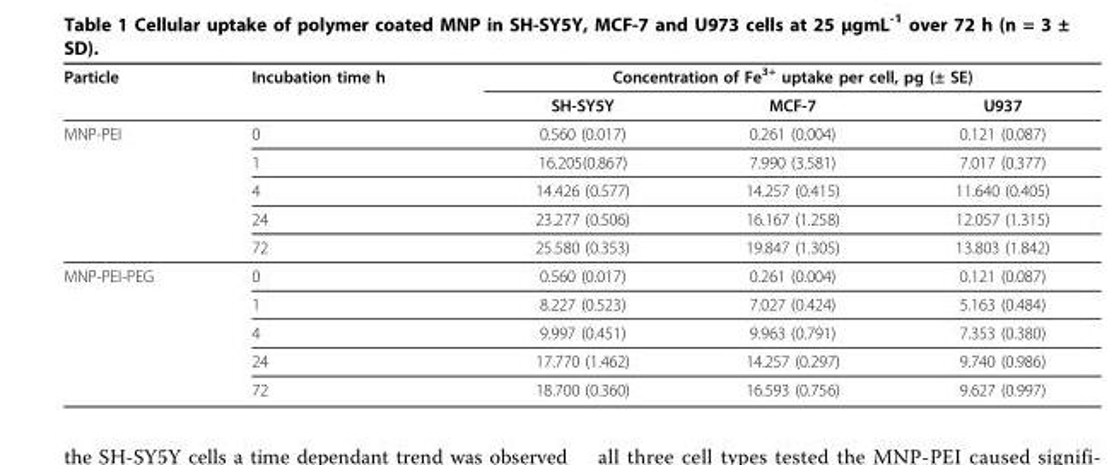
<table><thead><tr><td rowspan="2">Particle</td><td rowspan="2">Incubation time h</td><td colspan="3">Concentration of Fe<sup>3+</sup> uptake per cell, pg (± SE)</td></tr><tr><td>SH-SY5Y</td><td>MCF-7</td><td>U937</td></tr></thead><tbody><tr><td rowspan="5">MNP-PEI</td><td>0</td><td>0.560 (0.017)</td><td>0.261 (0.004)</td><td>0.121 (0.087)</td></tr><tr><td>1</td><td>16.205(0.867)</td><td>7.990 (3.581)</td><td>7.017 (0.377)</td></tr><tr><td>4</td><td>14.426 (0.577)</td><td>14.257 (0.415)</td><td>11.640 (0.405)</td></tr><tr><td>24</td><td>23.277 (0.506)</td><td>16.167 (1.258)</td><td>12.057 (1.315)</td></tr><tr><td>72</td><td>25.580 (0.353)</td><td>19.847 (1.305)</td><td>13.803 (1.842)</td></tr><tr><td rowspan="5">MNP-PEI-PEG</td><td>0</td><td>0.560 (0.017)</td><td>0.261 (0.004)</td><td>0.121 (0.087)</td></tr><tr><td>1</td><td>8.227 (0.523)</td><td>7.027 (0.424)</td><td>5.163 (0.484)</td></tr><tr><td>4</td><td>9.997 (0.451)</td><td>9.963 (0.791)</td><td>7.353 (0.380)</td></tr><tr><td>24</td><td>17.770 (1.462)</td><td>14.257 (0.297)</td><td>9.740 (0.986)</td></tr><tr><td>72</td><td>18.700 (0.360)</td><td>16.593 (0.756)</td><td>9.627 (0.997)</td></tr></tbody></table>